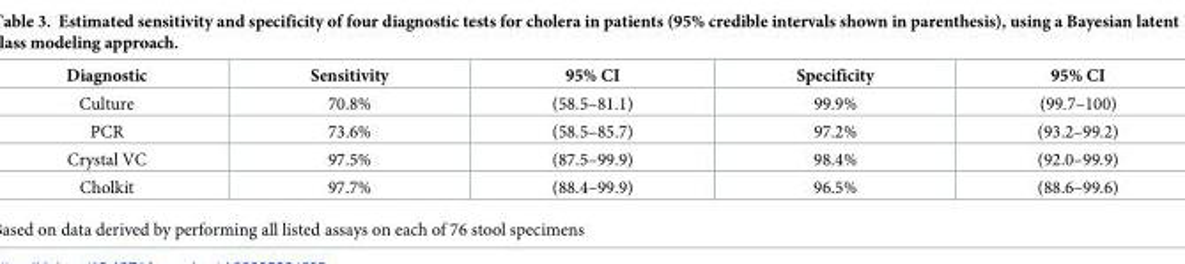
<table><thead><tr><td>Diagnostic</td><td>Sensitivity</td><td>95% CI</td><td>Specificity</td><td>95% CI</td></tr></thead><tbody><tr><td>Culture</td><td>70.8%</td><td>(58.5–81.1)</td><td>99.9%</td><td>(99.7–100)</td></tr><tr><td>PCR</td><td>73.6%</td><td>(58.5–85.7)</td><td>97.2%</td><td>(93.2–99.2)</td></tr><tr><td>Crystal VC</td><td>97.5%</td><td>(87.5–99.9)</td><td>98.4%</td><td>(92.0–99.9)</td></tr><tr><td>Cholkit</td><td>97.7%</td><td>(88.4–99.9)</td><td>96.5%</td><td>(88.6–99.6)</td></tr></tbody></table>